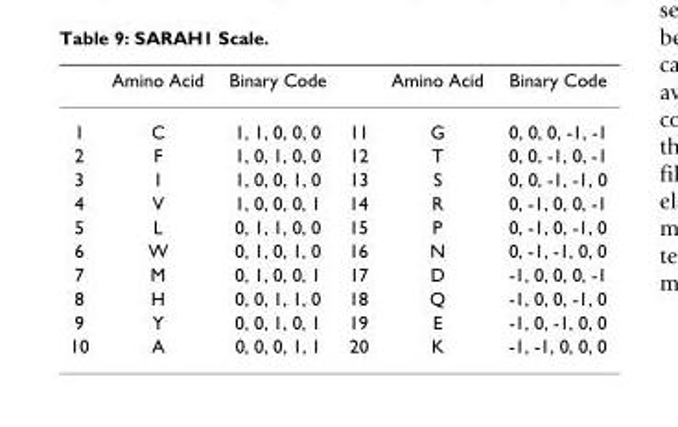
<table><thead><tr><td></td><td>Amino Acid</td><td>Binary Code</td><td></td><td>Amino Acid</td><td>Binary Code</td></tr></thead><tbody><tr><td>1</td><td>C</td><td>1, 1, 0, 0, 0</td><td>11</td><td>G</td><td>0, 0, 0, -1, -1</td></tr><tr><td>2</td><td>F</td><td>1, 0, 1, 0, 0</td><td>12</td><td>T</td><td>0, 0, -1, 0, -1</td></tr><tr><td>3</td><td>I</td><td>1, 0, 0, 1, 0</td><td>13</td><td>S</td><td>0, 0, -1, -1, 0</td></tr><tr><td>4</td><td>V</td><td>1, 0, 0, 0, 1</td><td>14</td><td>R</td><td>0, -1, 0, 0, -1</td></tr><tr><td>5</td><td>L</td><td>0, 1, 1, 0, 0</td><td>15</td><td>P</td><td>0, -1, 0, -1, 0</td></tr><tr><td>6</td><td>W</td><td>0, 1, 0, 1, 0</td><td>16</td><td>N</td><td>0, -1, -1, 0, 0</td></tr><tr><td>7</td><td>M</td><td>0, 1, 0, 0, 1</td><td>17</td><td>D</td><td>-1, 0, 0, 0, -1</td></tr><tr><td>8</td><td>H</td><td>0, 0, 1, 1, 0</td><td>18</td><td>Q</td><td>-1, 0, 0, -1, 0</td></tr><tr><td>9</td><td>Y</td><td>0, 0, 1, 0, 1</td><td>19</td><td>E</td><td>-1, 0, -1, 0, 0</td></tr><tr><td>10</td><td>A</td><td>0, 0, 0, 1, 1</td><td>20</td><td>K</td><td>-1, -1, 0, 0, 0</td></tr></tbody></table>